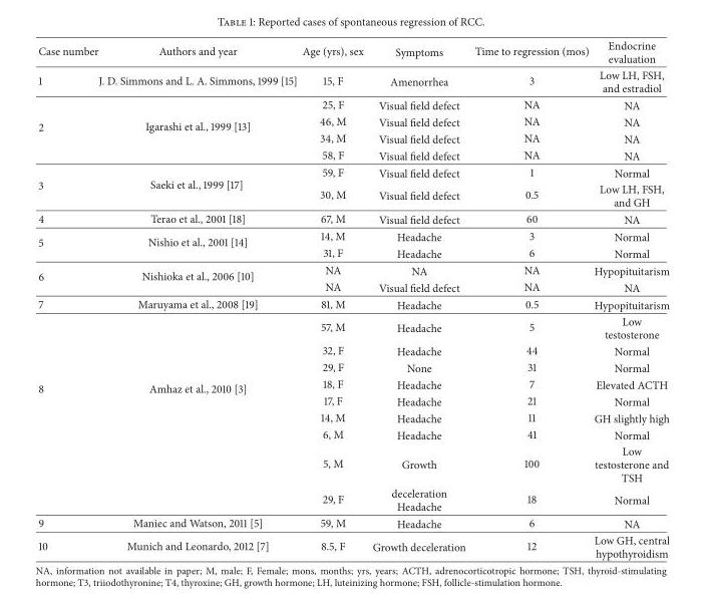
<table><thead><tr><td>Case number</td><td>Authors and year</td><td>Age (yrs), sex</td><td>Symptoms</td><td>Time to regression (mos)</td><td>Endocrine evaluation</td></tr></thead><tbody><tr><td>1</td><td>J. D. Simmons and L. A. Simmons, 1999 [15]</td><td>15, F</td><td>Amenorrhea</td><td>3</td><td>Low LH, FSH, and estradiol</td></tr><tr><td rowspan="4">2</td><td rowspan="4">Igarashi et al., 1999 [13]</td><td>25, F</td><td>Visual field defect</td><td>NA</td><td>NA</td></tr><tr><td>46, M</td><td>Visual field defect</td><td>NA</td><td>NA</td></tr><tr><td>34, M</td><td>Visual field defect</td><td>NA</td><td>NA</td></tr><tr><td>58, F</td><td>Visual field defect</td><td>NA</td><td>NA</td></tr><tr><td rowspan="2">3</td><td rowspan="2">Saeki et al., 1999 [17]</td><td>59, F</td><td>Visual field defect</td><td>1</td><td>Normal</td></tr><tr><td>30, M</td><td>Visual field defect</td><td>0.5</td><td>Low LH, FSH, and GH</td></tr><tr><td>4</td><td>Terao et al., 2001 [18]</td><td>67, M</td><td>Visual field defect</td><td>60</td><td>NA</td></tr><tr><td rowspan="2">5</td><td rowspan="2">Nishio et al., 2001 [14]</td><td>14, M</td><td>Headache</td><td>3</td><td>Normal</td></tr><tr><td>31, F</td><td>Headache</td><td>6</td><td>Normal</td></tr><tr><td rowspan="2">6</td><td rowspan="2">Nishioka et al., 2006 [10]</td><td>NA</td><td>NA</td><td>NA</td><td>Hypopituitarism</td></tr><tr><td>NA</td><td>Visual field defect</td><td>NA</td><td>NA</td></tr><tr><td>7</td><td>Maruyama et al., 2008 [19]</td><td>81, M</td><td>Headache</td><td>0.5</td><td>Hypopituitarism</td></tr><tr><td rowspan="9">8</td><td rowspan="9">Amhaz et al., 2010 [3]</td><td>57, M</td><td>Headache</td><td>5</td><td>Low testosterone</td></tr><tr><td>32, F</td><td>Headache</td><td>44</td><td>Normal</td></tr><tr><td>29, F</td><td>None</td><td>31</td><td>Normal</td></tr><tr><td>18, F</td><td>Headache</td><td>7</td><td>Elevated ACTH</td></tr><tr><td>17, F</td><td>Headache</td><td>21</td><td>Normal</td></tr><tr><td>14, M</td><td>Headache</td><td>11</td><td>GH slightly high</td></tr><tr><td>6, M</td><td>Headache</td><td>41</td><td>Normal</td></tr><tr><td>5, M</td><td>Growth</td><td>100</td><td>Low testosterone and TSH</td></tr><tr><td>29, F</td><td>deceleration Headache</td><td>18</td><td>Normal</td></tr><tr><td>9</td><td>Maniec and Watson, 2011 [5]</td><td>59, M</td><td>Headache</td><td>6</td><td>NA</td></tr><tr><td>10</td><td>Munich and Leonardo, 2012 [7]</td><td>8.5, F</td><td>Growth deceleration</td><td>12</td><td>Low GH, central hypothyroidism</td></tr></tbody></table>